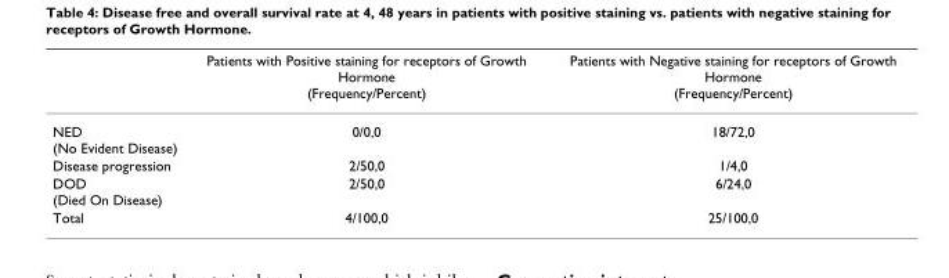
<table><thead><tr><td></td><td>Patients with Positive staining for receptors of Growth Hormone (Frequency/Percent)</td><td>Patients with Negative staining for receptors of Growth Hormone (Frequency/Percent)</td></tr></thead><tbody><tr><td>NED (No Evident Disease)</td><td>0/0,0</td><td>18/72,0</td></tr><tr><td>Disease progression</td><td>2/50,0</td><td>1/4,0</td></tr><tr><td>DOD (Died On Disease)</td><td>2/50,0</td><td>6/24,0</td></tr><tr><td>Total</td><td>4/100,0</td><td>25/100,0</td></tr></tbody></table>